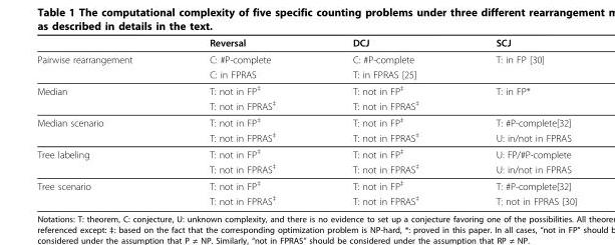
<table><thead><tr><td></td><td>Reversal</td><td>DCJ</td><td>SCJ</td></tr></thead><tbody><tr><td rowspan="2">Pairwise rearrangement</td><td>C: #P-complete</td><td>C: #P-complete</td><td>T: in FP [30]</td></tr><tr><td>C: in FPRAS</td><td>T: in FPRAS [25]</td><td></td></tr><tr><td rowspan="2">Median</td><td>T: not in FP<sup>‡</sup></td><td>T: not in FP<sup>‡</sup></td><td>T: in FP*</td></tr><tr><td>T: not in FPRAS<sup>‡</sup></td><td>T: not in FPRAS<sup>‡</sup></td><td></td></tr><tr><td rowspan="2">Median scenario</td><td>T: not in FP<sup>‡</sup></td><td>T: not in FP<sup>‡</sup></td><td>T: #P-complete[32]</td></tr><tr><td>T: not in FPRAS<sup>‡</sup></td><td>T: not in FPRAS<sup>‡</sup></td><td>U: in/not in FPRAS</td></tr><tr><td rowspan="2">Tree labeling</td><td>T: not in FP<sup>‡</sup></td><td>T: not in FP<sup>‡</sup></td><td>U: FP/#P-complete</td></tr><tr><td>T: not in FPRAS<sup>‡</sup></td><td>T: not in FPRAS<sup>‡</sup></td><td>U: in/not in FPRAS</td></tr><tr><td rowspan="2">Tree scenario</td><td>T: not in FP<sup>‡</sup></td><td>T: not in FP<sup>‡</sup></td><td>T: #P-complete[32]</td></tr><tr><td>T: not in FPRAS<sup>‡</sup></td><td>T: not in FPRAS<sup>‡</sup></td><td>T: not in FPRAS [30]</td></tr></tbody></table>